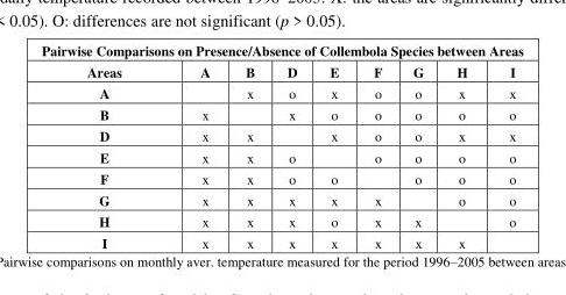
<table><thead><tr><td colspan="9">Pairwise Comparisons on Presence/Absence of Collembola Species between Areas</td></tr><tr><td>Areas</td><td>A</td><td>B</td><td>D</td><td>E</td><td>F</td><td>G</td><td>H</td><td>I</td></tr></thead><tbody><tr><td>A</td><td></td><td>x</td><td>o</td><td>x</td><td>o</td><td>o</td><td>x</td><td>x</td></tr><tr><td>B</td><td>x</td><td></td><td>x</td><td>o</td><td>o</td><td>o</td><td>o</td><td>o</td></tr><tr><td>D</td><td>x</td><td>x</td><td></td><td>x</td><td>o</td><td>o</td><td>x</td><td>x</td></tr><tr><td>E</td><td>x</td><td>x</td><td>o</td><td></td><td>o</td><td>o</td><td>o</td><td>o</td></tr><tr><td>F</td><td>x</td><td>x</td><td>o</td><td>o</td><td></td><td>o</td><td>o</td><td>o</td></tr><tr><td>G</td><td>x</td><td>x</td><td>x</td><td>x</td><td>x</td><td></td><td>o</td><td>o</td></tr><tr><td>H</td><td>x</td><td>x</td><td>x</td><td>o</td><td>x</td><td>x</td><td></td><td>o</td></tr><tr><td>I</td><td>x</td><td>x</td><td>x</td><td>x</td><td>x</td><td>x</td><td>x</td><td></td></tr></tbody></table>